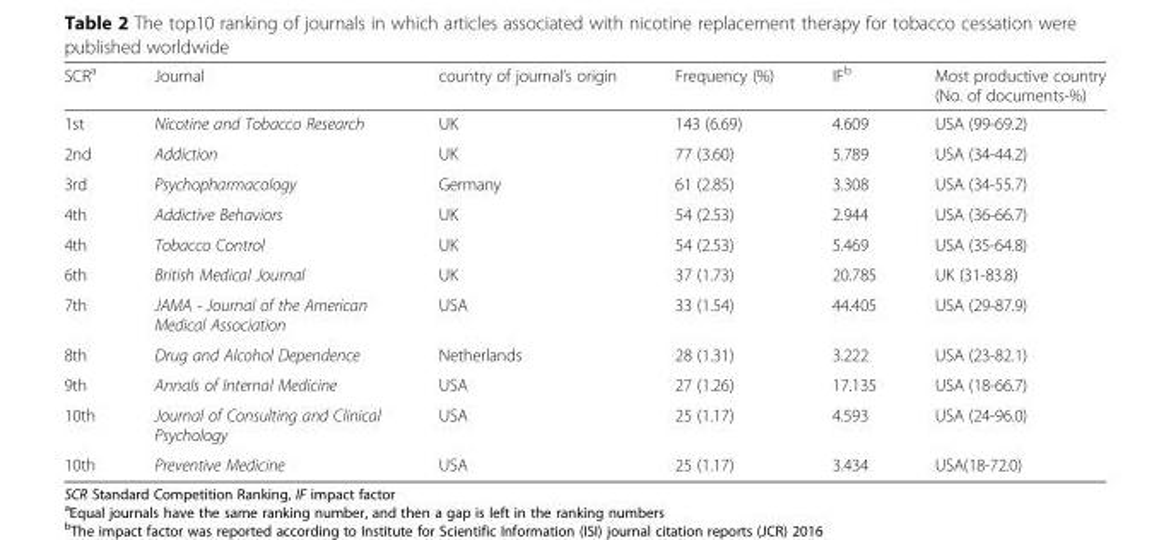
<table><thead><tr><td>SCR<sup>a</sup></td><td>Journal</td><td>country of journal’s origin</td><td>Frequency (%)</td><td>IF<sup>b</sup></td><td>Most productive country (No. of documents-%)</td></tr></thead><tbody><tr><td>1st</td><td>Nicotine and Tobacco Research</td><td>UK</td><td>143 (6.69)</td><td>4.609</td><td>USA (99-69.2)</td></tr><tr><td>2nd</td><td>Addiction</td><td>UK</td><td>77 (3.60)</td><td>5.789</td><td>USA (34-44.2)</td></tr><tr><td>3rd</td><td>Psychopharmacology</td><td>Germany</td><td>61 (2.85)</td><td>3.308</td><td>USA (34-55.7)</td></tr><tr><td>4th</td><td>Addictive Behaviors</td><td>UK</td><td>54 (2.53)</td><td>2.944</td><td>USA (36-66.7)</td></tr><tr><td>4th</td><td>Tobacco Control</td><td>UK</td><td>54 (2.53)</td><td>5.469</td><td>USA (35-64.8)</td></tr><tr><td>6th</td><td>British Medical Journal</td><td>UK</td><td>37 (1.73)</td><td>20.785</td><td>UK (31-83.8)</td></tr><tr><td>7th</td><td>JAMA - Journal of the American Medical Association</td><td>USA</td><td>33 (1.54)</td><td>44.405</td><td>USA (29-87.9)</td></tr><tr><td>8th</td><td>Drug and Alcohol Dependence</td><td>Netherlands</td><td>28 (1.31)</td><td>3.222</td><td>USA (23-82.1)</td></tr><tr><td>9th</td><td>Annals of Internal Medicine</td><td>USA</td><td>27 (1.26)</td><td>17.135</td><td>USA (18-66.7)</td></tr><tr><td>10th</td><td>Journal of Consulting and Clinical Psychology</td><td>USA</td><td>25 (1.17)</td><td>4.593</td><td>USA (24-96.0)</td></tr><tr><td>10th</td><td>Preventive Medicine</td><td>USA</td><td>25 (1.17)</td><td>3.434</td><td>USA(18-72.0)</td></tr></tbody></table>